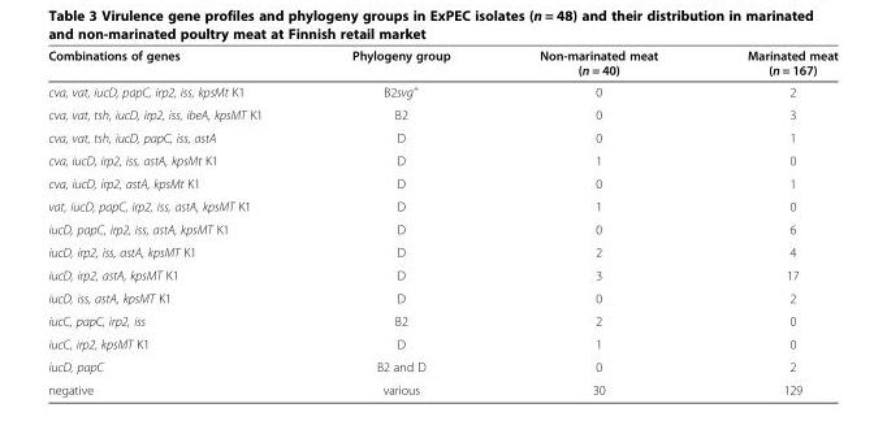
<table><thead><tr><td>Combinations of genes</td><td>Phylogeny group</td><td>Non-marinated meat (n = 40)</td><td>Marinated meat (n = 167)</td></tr></thead><tbody><tr><td>cva, vat, iucD, papC, irp2, iss, kpsMt K1</td><td>B2svg<sup>+</sup></td><td>0</td><td>2</td></tr><tr><td>cva, vat, tsh, iucD, irp2, iss, ibeA, kpsMT K1</td><td>B2</td><td>0</td><td>3</td></tr><tr><td>cva, vat, tsh, iucD, papC, iss, astA</td><td>D</td><td>0</td><td>1</td></tr><tr><td>cva, iucD, irp2, iss, astA, kpsMt K1</td><td>D</td><td>1</td><td>0</td></tr><tr><td>cva, iucD, irp2, astA, kpsMt K1</td><td>D</td><td>0</td><td>1</td></tr><tr><td>vat, iucD, papC, irp2, iss, astA, kpsMT K1</td><td>D</td><td>1</td><td>0</td></tr><tr><td>iucD, papC, irp2, iss, astA, kpsMT K1</td><td>D</td><td>0</td><td>6</td></tr><tr><td>iucD, irp2, iss, astA, kpsMT K1</td><td>D</td><td>2</td><td>4</td></tr><tr><td>iucD, irp2, astA, kpsMT K1</td><td>D</td><td>3</td><td>17</td></tr><tr><td>iucD, iss, astA, kpsMT K1</td><td>D</td><td>0</td><td>2</td></tr><tr><td>iucC, papC, irp2, iss</td><td>B2</td><td>2</td><td>0</td></tr><tr><td>iucC, irp2, kpsMT K1</td><td>D</td><td>1</td><td>0</td></tr><tr><td>iucD, papC</td><td>B2 and D</td><td>0</td><td>2</td></tr><tr><td>negative</td><td>various</td><td>30</td><td>129</td></tr></tbody></table>